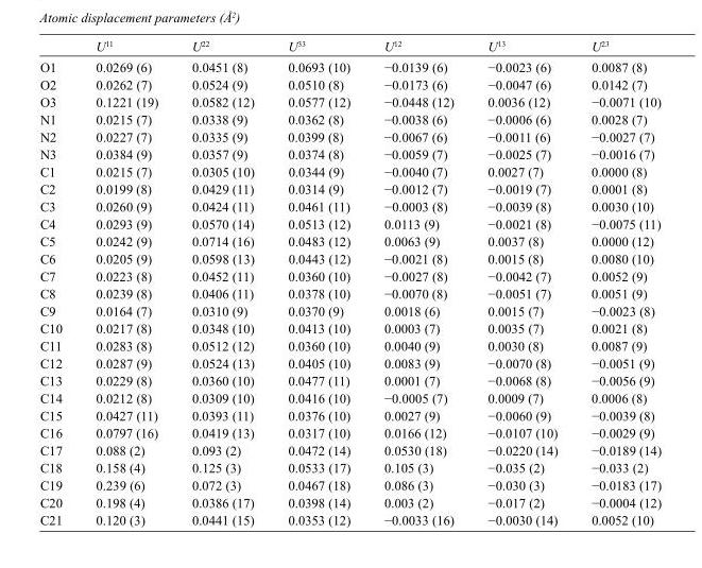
<table><thead><tr><td></td><td>U<sup>11</sup></td><td>U<sup>22</sup></td><td>U<sup>33</sup></td><td>U<sup>12</sup></td><td>U<sup>13</sup></td><td>U<sup>23</sup></td></tr></thead><tbody><tr><td>O1</td><td>0.0269 (6)</td><td>0.0451 (8)</td><td>0.0693 (10)</td><td>−0.0139 (6)</td><td>−0.0023 (6)</td><td>0.0087 (8)</td></tr><tr><td>O2</td><td>0.0262 (7)</td><td>0.0524 (9)</td><td>0.0510 (8)</td><td>−0.0173 (6)</td><td>−0.0047 (6)</td><td>0.0142 (7)</td></tr><tr><td>O3</td><td>0.1221 (19)</td><td>0.0582 (12)</td><td>0.0577 (12)</td><td>−0.0448 (12)</td><td>0.0036 (12)</td><td>−0.0071 (10)</td></tr><tr><td>N1</td><td>0.0215 (7)</td><td>0.0338 (9)</td><td>0.0362 (8)</td><td>−0.0038 (6)</td><td>−0.0006 (6)</td><td>0.0028 (7)</td></tr><tr><td>N2</td><td>0.0227 (7)</td><td>0.0335 (9)</td><td>0.0399 (8)</td><td>−0.0067 (6)</td><td>−0.0011 (6)</td><td>−0.0027 (7)</td></tr><tr><td>N3</td><td>0.0384 (9)</td><td>0.0357 (9)</td><td>0.0374 (8)</td><td>−0.0059 (7)</td><td>−0.0025 (7)</td><td>−0.0016 (7)</td></tr><tr><td>C1</td><td>0.0215 (7)</td><td>0.0305 (10)</td><td>0.0344 (9)</td><td>−0.0040 (7)</td><td>0.0027 (7)</td><td>0.0000 (8)</td></tr><tr><td>C2</td><td>0.0199 (8)</td><td>0.0429 (11)</td><td>0.0314 (9)</td><td>−0.0012 (7)</td><td>−0.0019 (7)</td><td>0.0001 (8)</td></tr><tr><td>C3</td><td>0.0260 (9)</td><td>0.0424 (11)</td><td>0.0461 (11)</td><td>−0.0003 (8)</td><td>−0.0039 (8)</td><td>0.0030 (10)</td></tr><tr><td>C4</td><td>0.0293 (9)</td><td>0.0570 (14)</td><td>0.0513 (12)</td><td>0.0113 (9)</td><td>−0.0021 (8)</td><td>−0.0075 (11)</td></tr><tr><td>C5</td><td>0.0242 (9)</td><td>0.0714 (16)</td><td>0.0483 (12)</td><td>0.0063 (9)</td><td>0.0037 (8)</td><td>0.0000 (12)</td></tr><tr><td>C6</td><td>0.0205 (9)</td><td>0.0598 (13)</td><td>0.0443 (12)</td><td>−0.0021 (8)</td><td>0.0015 (8)</td><td>0.0080 (10)</td></tr><tr><td>C7</td><td>0.0223 (8)</td><td>0.0452 (11)</td><td>0.0360 (10)</td><td>−0.0027 (8)</td><td>−0.0042 (7)</td><td>0.0052 (9)</td></tr><tr><td>C8</td><td>0.0239 (8)</td><td>0.0406 (11)</td><td>0.0378 (10)</td><td>−0.0070 (8)</td><td>−0.0051 (7)</td><td>0.0051 (9)</td></tr><tr><td>C9</td><td>0.0164 (7)</td><td>0.0310 (9)</td><td>0.0370 (9)</td><td>0.0018 (6)</td><td>0.0015 (7)</td><td>−0.0023 (8)</td></tr><tr><td>C10</td><td>0.0217 (8)</td><td>0.0348 (10)</td><td>0.0413 (10)</td><td>0.0003 (7)</td><td>0.0035 (7)</td><td>0.0021 (8)</td></tr><tr><td>C11</td><td>0.0283 (8)</td><td>0.0512 (12)</td><td>0.0360 (10)</td><td>0.0040 (9)</td><td>0.0030 (8)</td><td>0.0087 (9)</td></tr><tr><td>C12</td><td>0.0287 (9)</td><td>0.0524 (13)</td><td>0.0405 (10)</td><td>0.0083 (9)</td><td>−0.0070 (8)</td><td>−0.0051 (9)</td></tr><tr><td>C13</td><td>0.0229 (8)</td><td>0.0360 (10)</td><td>0.0477 (11)</td><td>0.0001 (7)</td><td>−0.0068 (8)</td><td>−0.0056 (9)</td></tr><tr><td>C14</td><td>0.0212 (8)</td><td>0.0309 (10)</td><td>0.0416 (10)</td><td>−0.0005 (7)</td><td>0.0009 (7)</td><td>0.0006 (8)</td></tr><tr><td>C15</td><td>0.0427 (11)</td><td>0.0393 (11)</td><td>0.0376 (10)</td><td>0.0027 (9)</td><td>−0.0060 (9)</td><td>−0.0039 (8)</td></tr><tr><td>C16</td><td>0.0797 (16)</td><td>0.0419 (13)</td><td>0.0317 (10)</td><td>0.0166 (12)</td><td>−0.0107 (10)</td><td>−0.0029 (9)</td></tr><tr><td>C17</td><td>0.088 (2)</td><td>0.093 (2)</td><td>0.0472 (14)</td><td>0.0530 (18)</td><td>−0.0220 (14)</td><td>−0.0189 (14)</td></tr><tr><td>C18</td><td>0.158 (4)</td><td>0.125 (3)</td><td>0.0533 (17)</td><td>0.105 (3)</td><td>−0.035 (2)</td><td>−0.033 (2)</td></tr><tr><td>C19</td><td>0.239 (6)</td><td>0.072 (3)</td><td>0.0467 (18)</td><td>0.086 (3)</td><td>−0.030 (3)</td><td>−0.0183 (17)</td></tr><tr><td>C20</td><td>0.198 (4)</td><td>0.0386 (17)</td><td>0.0398 (14)</td><td>0.003 (2)</td><td>−0.017 (2)</td><td>−0.0004 (12)</td></tr><tr><td>C21</td><td>0.120 (3)</td><td>0.0441 (15)</td><td>0.0353 (12)</td><td>−0.0033 (16)</td><td>−0.0030 (14)</td><td>0.0052 (10)</td></tr></tbody></table>